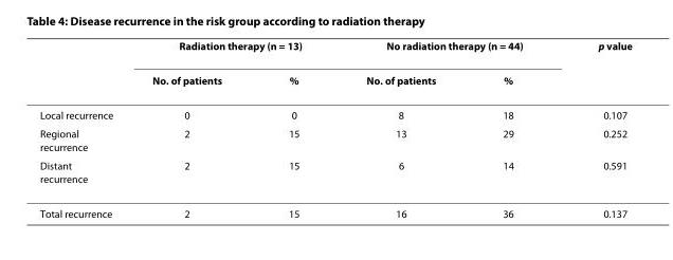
<table><thead><tr><td rowspan="2"></td><td colspan="2">Radiation therapy (n = 13)</td><td colspan="2">No radiation therapy (n = 44)</td><td rowspan="2">p value</td></tr><tr><td>No. of patients</td><td>%</td><td>No. of patients</td><td>%</td></tr></thead><tbody><tr><td>Local recurrence</td><td>0</td><td>0</td><td>8</td><td>18</td><td>0.107</td></tr><tr><td>Regional recurrence</td><td>2</td><td>15</td><td>13</td><td>29</td><td>0.252</td></tr><tr><td>Distant recurrence</td><td>2</td><td>15</td><td>6</td><td>14</td><td>0.591</td></tr><tr><td>Total recurrence</td><td>2</td><td>15</td><td>16</td><td>36</td><td>0.137</td></tr></tbody></table>